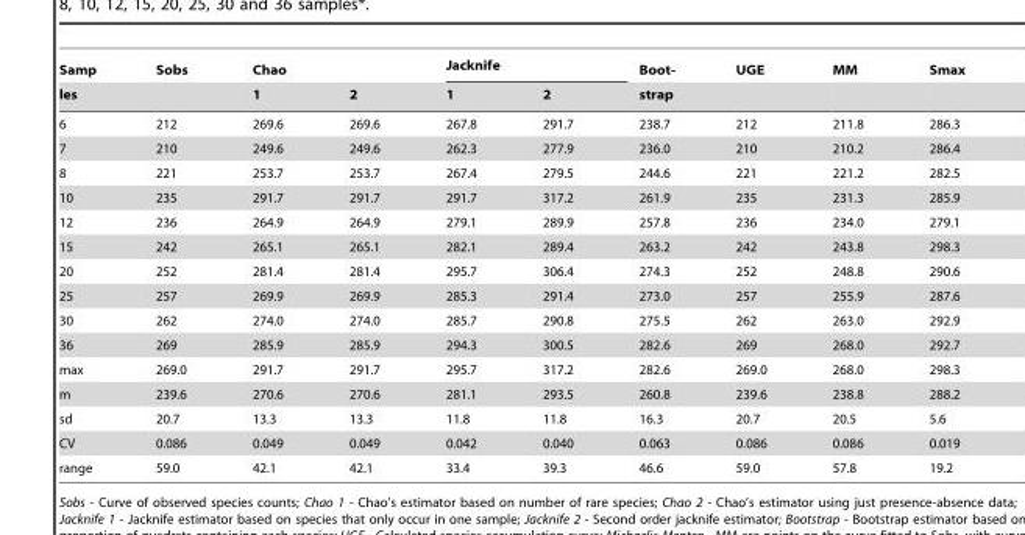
<table><thead><tr><td rowspan="2">Samp les</td><td rowspan="2">Sobs</td><td rowspan="2">Chao 1</td><td rowspan="2">2</td><td colspan="2">Jacknife</td><td rowspan="2">Boot- strap</td><td rowspan="2">UGE</td><td rowspan="2">MM</td><td rowspan="2">Smax</td></tr><tr><td>1</td><td>2</td></tr></thead><tbody><tr><td>6</td><td>212</td><td>269.6</td><td>269.6</td><td>267.8</td><td>291.7</td><td>238.7</td><td>212</td><td>211.8</td><td>286.3</td></tr><tr><td>7</td><td>210</td><td>249.6</td><td>249.6</td><td>262.3</td><td>277.9</td><td>236.0</td><td>210</td><td>210.2</td><td>286.4</td></tr><tr><td>8</td><td>221</td><td>253.7</td><td>253.7</td><td>267.4</td><td>279.5</td><td>244.6</td><td>221</td><td>221.2</td><td>282.5</td></tr><tr><td>10</td><td>235</td><td>291.7</td><td>291.7</td><td>291.7</td><td>317.2</td><td>261.9</td><td>235</td><td>231.3</td><td>285.9</td></tr><tr><td>12</td><td>236</td><td>264.9</td><td>264.9</td><td>279.1</td><td>289.9</td><td>257.8</td><td>236</td><td>234.0</td><td>279.1</td></tr><tr><td>15</td><td>242</td><td>265.1</td><td>265.1</td><td>282.1</td><td>289.4</td><td>263.2</td><td>242</td><td>243.8</td><td>298.3</td></tr><tr><td>20</td><td>252</td><td>281.4</td><td>281.4</td><td>295.7</td><td>306.4</td><td>274.3</td><td>252</td><td>248.8</td><td>290.6</td></tr><tr><td>25</td><td>257</td><td>269.9</td><td>269.9</td><td>285.3</td><td>291.4</td><td>273.0</td><td>257</td><td>255.9</td><td>287.6</td></tr><tr><td>30</td><td>262</td><td>274.0</td><td>274.0</td><td>285.7</td><td>290.8</td><td>275.5</td><td>262</td><td>263.0</td><td>292.9</td></tr><tr><td>36</td><td>269</td><td>285.9</td><td>285.9</td><td>294.3</td><td>300.5</td><td>282.6</td><td>269</td><td>268.0</td><td>292.7</td></tr><tr><td>max</td><td>269.0</td><td>291.7</td><td>291.7</td><td>295.7</td><td>317.2</td><td>282.6</td><td>269.0</td><td>268.0</td><td>298.3</td></tr><tr><td>m</td><td>239.6</td><td>270.6</td><td>270.6</td><td>281.1</td><td>293.5</td><td>260.8</td><td>239.6</td><td>238.8</td><td>288.2</td></tr><tr><td>sd</td><td>20.7</td><td>13.3</td><td>13.3</td><td>11.8</td><td>11.8</td><td>16.3</td><td>20.7</td><td>20.5</td><td>5.6</td></tr><tr><td>CV</td><td>0.086</td><td>0.049</td><td>0.049</td><td>0.042</td><td>0.040</td><td>0.063</td><td>0.086</td><td>0.086</td><td>0.019</td></tr><tr><td>range</td><td>59.0</td><td>42.1</td><td>42.1</td><td>33.4</td><td>39.3</td><td>46.6</td><td>59.0</td><td>57.8</td><td>19.2</td></tr></tbody></table>